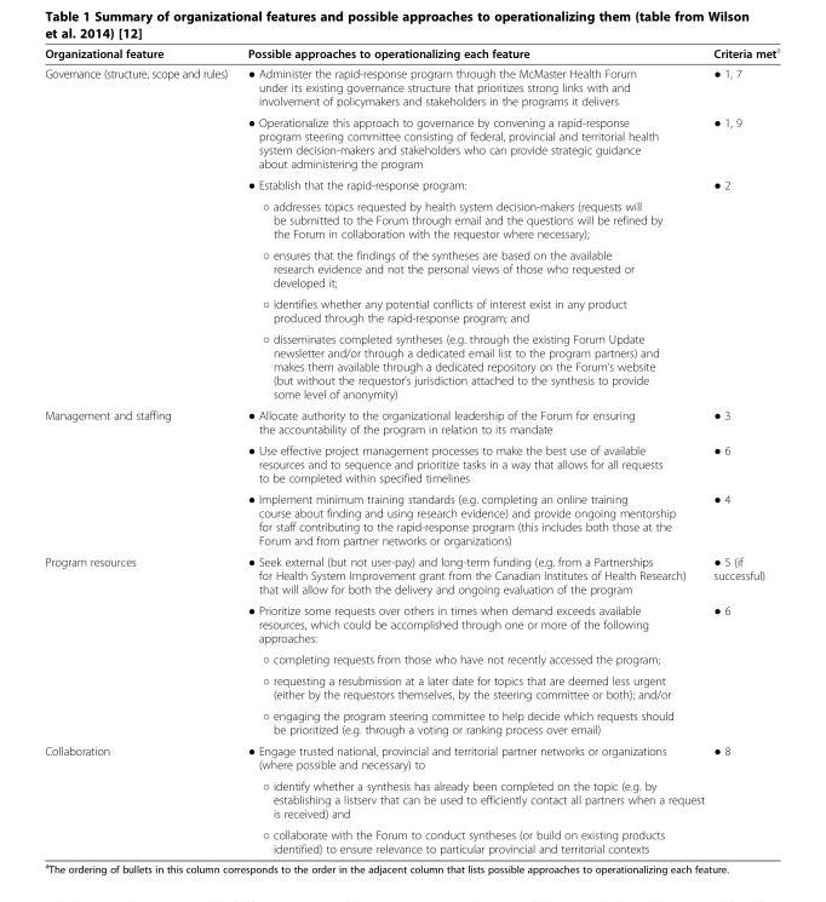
<table><thead><tr><td>Organizational feature</td><td>Possible approaches to operationalizing each feature</td><td>Criteria met<sup>a</sup></td></tr></thead><tbody><tr><td rowspan="7">Governance (structure, scope and rules)</td><td>● Administer the rapid-response program through the McMaster Health Forum under its existing governance structure that prioritizes strong links with and involvement of policymakers and stakeholders in the programs it delivers</td><td>● 1, 7</td></tr><tr><td>● Operationalize this approach to governance by convening a rapid-response program steering committee consisting of federal, provincial and territorial health system decision-makers and stakeholders who can provide strategic guidance about administering the program</td><td>● 1, 9</td></tr><tr><td>● Establish that the rapid-response program:</td><td rowspan="5">● 2</td></tr><tr><td>○ addresses topics requested by health system decision-makers (requests will be submitted to the Forum through email and the questions will be refined by the Forum in collaboration with the requestor where necessary);</td></tr><tr><td>○ ensures that the findings of the syntheses are based on the available research evidence and not the personal views of those who requested or developed it;</td></tr><tr><td>○ identifies whether any potential conflicts of interest exist in any product produced through the rapid-response program; and</td></tr><tr><td>○ disseminates completed syntheses (e.g. through the existing Forum Update newsletter and/or through a dedicated email list to the program partners) and makes them available through a dedicated repository on the Forum’s website (but without the requestor’s jurisdiction attached to the synthesis to provide some level of anonymity)</td></tr><tr><td rowspan="3">Management and staffing</td><td>● Allocate authority to the organizational leadership of the Forum for ensuring the accountability of the program in relation to its mandate</td><td>● 3</td></tr><tr><td>● Use effective project management processes to make the best use of available resources and to sequence and prioritize tasks in a way that allows for all requests to be completed within specified timelines</td><td>● 6</td></tr><tr><td>● Implement minimum training standards (e.g. completing an online training course about finding and using research evidence) and provide ongoing mentorship for staff contributing to the rapid-response program (this includes both those at the Forum and from partner networks or organizations)</td><td>● 4</td></tr><tr><td rowspan="5">Program resources</td><td>● Seek external (but not user-pay) and long-term funding (e.g. from a Partnerships for Health System Improvement grant from the Canadian Institutes of Health Research) that will allow for both the delivery and ongoing evaluation of the program</td><td>● 5 (if successful)</td></tr><tr><td>● Prioritize some requests over others in times when demand exceeds available resources, which could be accomplished through one or more of the following approaches:</td><td rowspan="3">● 6</td></tr><tr><td>○ completing requests from those who have not recently accessed the program;</td></tr><tr><td>○ requesting a resubmission at a later date for topics that are deemed less urgent (either by the requestors themselves, by the steering committee or both); and/or</td></tr><tr><td>○ engaging the program steering committee to help decide which requests should be prioritized (e.g. through a voting or ranking process over email)</td><td></td></tr><tr><td rowspan="3">Collaboration</td><td>● Engage trusted national, provincial and territorial partner networks or organizations (where possible and necessary) to</td><td rowspan="2">● 8</td></tr><tr><td>○ identify whether a synthesis has already been completed on the topic (e.g. by establishing a listserv that can be used to efficiently contact all partners when a request is received) and</td></tr><tr><td>○ collaborate with the Forum to conduct syntheses (or build on existing products identified) to ensure relevance to particular provincial and territorial contexts</td><td></td></tr></tbody></table>